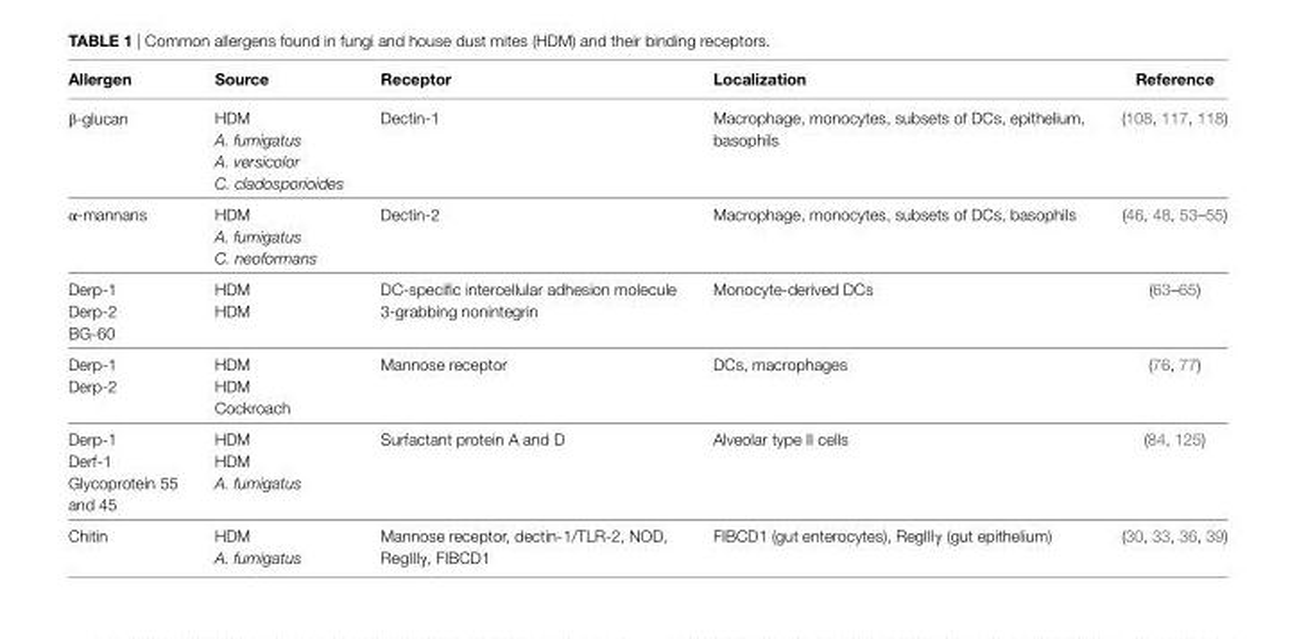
<table><thead><tr><td>Allergen</td><td>Source</td><td>Receptor</td><td>Localization</td><td>Reference</td></tr></thead><tbody><tr><td>β-glucan</td><td>HDM A. fumigatus A. versicolor C. cladosporioides</td><td>Dectin-1</td><td>Macrophage, monocytes, subsets of DCs, epithelium, basophils</td><td>(108, 117, 118)</td></tr><tr><td>α-mannans</td><td>HDM A. fumigatus C. neoformans</td><td>Dectin-2</td><td>Macrophage, monocytes, subsets of DCs, basophils</td><td>(46, 48, 53–55)</td></tr><tr><td>Derp-1 Derp-2 BG-60</td><td>HDM HDM</td><td>DC-specific intercellular adhesion molecule 3-grabbing nonintegrin</td><td>Monocyte-derived DCs</td><td>(63–65)</td></tr><tr><td>Derp-1 Derp-2</td><td>HDM HDM Cockroach</td><td>Mannose receptor</td><td>DCs, macrophages</td><td>(76, 77)</td></tr><tr><td>Derp-1 Derf-1 Glycoprotein 55 and 45</td><td>HDM HDM A. fumigatus</td><td>Surfactant protein A and D</td><td>Alveolar type II cells</td><td>(84, 125)</td></tr><tr><td>Chitin</td><td>HDM A. fumigatus</td><td>Mannose receptor, dectin-1/TLR-2, NOD, RegIIIγ, FIBCD1</td><td>FIBCD1 (gut enterocytes), RegIIIγ (gut epithelium)</td><td>(30, 33, 36, 39)</td></tr></tbody></table>